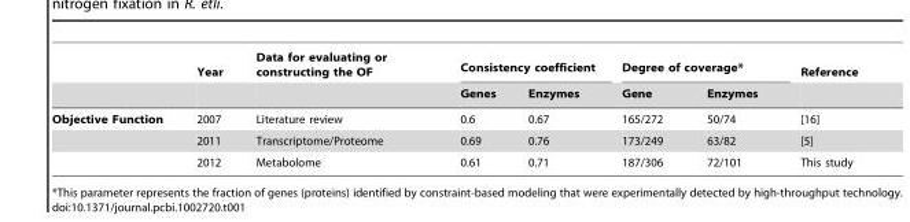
<table><thead><tr><td rowspan="2"></td><td rowspan="2">Year</td><td rowspan="2">Data for evaluating or constructing the OF</td><td colspan="2">Consistency coefficient</td><td colspan="2">Degree of coverage*</td><td rowspan="2">Reference</td></tr><tr><td>Genes</td><td>Enzymes</td><td>Gene</td><td>Enzymes</td></tr></thead><tbody><tr><td rowspan="3">Objective Function</td><td>2007</td><td>Literature review</td><td>0.6</td><td>0.67</td><td>165/272</td><td>50/74</td><td>[16]</td></tr><tr><td>2011</td><td>Transcriptome/Proteome</td><td>0.69</td><td>0.76</td><td>173/249</td><td>63/82</td><td>[5]</td></tr><tr><td>2012</td><td>Metabolome</td><td>0.61</td><td>0.71</td><td>187/306</td><td>72/101</td><td>This study</td></tr></tbody></table>